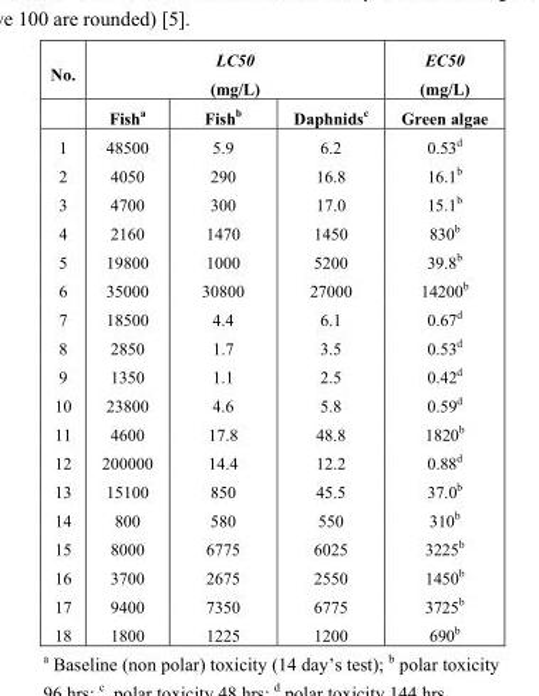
<table><thead><tr><td rowspan="2">No.</td><td colspan="3">LC50 (mg/L)</td><td rowspan="2">EC50 (mg/L) Green algae</td></tr><tr><td>Fisha</td><td>Fishb</td><td>Daphnidsc</td></tr></thead><tbody><tr><td>1</td><td>48500</td><td>5.9</td><td>6.2</td><td>0.53<sup>d</sup></td></tr><tr><td>2</td><td>4050</td><td>290</td><td>16.8</td><td>16.1<sup>b</sup></td></tr><tr><td>3</td><td>4700</td><td>300</td><td>17.0</td><td>15.1<sup>b</sup></td></tr><tr><td>4</td><td>2160</td><td>1470</td><td>1450</td><td>830<sup>b</sup></td></tr><tr><td>5</td><td>19800</td><td>1000</td><td>5200</td><td>39.8<sup>b</sup></td></tr><tr><td>6</td><td>35000</td><td>30800</td><td>27000</td><td>14200<sup>b</sup></td></tr><tr><td>7</td><td>18500</td><td>4.4</td><td>6.1</td><td>0.67<sup>d</sup></td></tr><tr><td>8</td><td>2850</td><td>1.7</td><td>3.5</td><td>0.53<sup>d</sup></td></tr><tr><td>9</td><td>1350</td><td>1.1</td><td>2.5</td><td>0.42<sup>d</sup></td></tr><tr><td>10</td><td>23800</td><td>4.6</td><td>5.8</td><td>0.59<sup>d</sup></td></tr><tr><td>11</td><td>4600</td><td>17.8</td><td>48.8</td><td>1820<sup>b</sup></td></tr><tr><td>12</td><td>200000</td><td>14.4</td><td>12.2</td><td>0.88<sup>d</sup></td></tr><tr><td>13</td><td>15100</td><td>850</td><td>45.5</td><td>37.0<sup>b</sup></td></tr><tr><td>14</td><td>800</td><td>580</td><td>550</td><td>310<sup>b</sup></td></tr><tr><td>15</td><td>8000</td><td>6775</td><td>6025</td><td>3225<sup>b</sup></td></tr><tr><td>16</td><td>3700</td><td>2675</td><td>2550</td><td>1450<sup>b</sup></td></tr><tr><td>17</td><td>9400</td><td>7350</td><td>6775</td><td>3725<sup>b</sup></td></tr><tr><td>18</td><td>1800</td><td>1225</td><td>1200</td><td>690<sup>b</sup></td></tr></tbody></table>